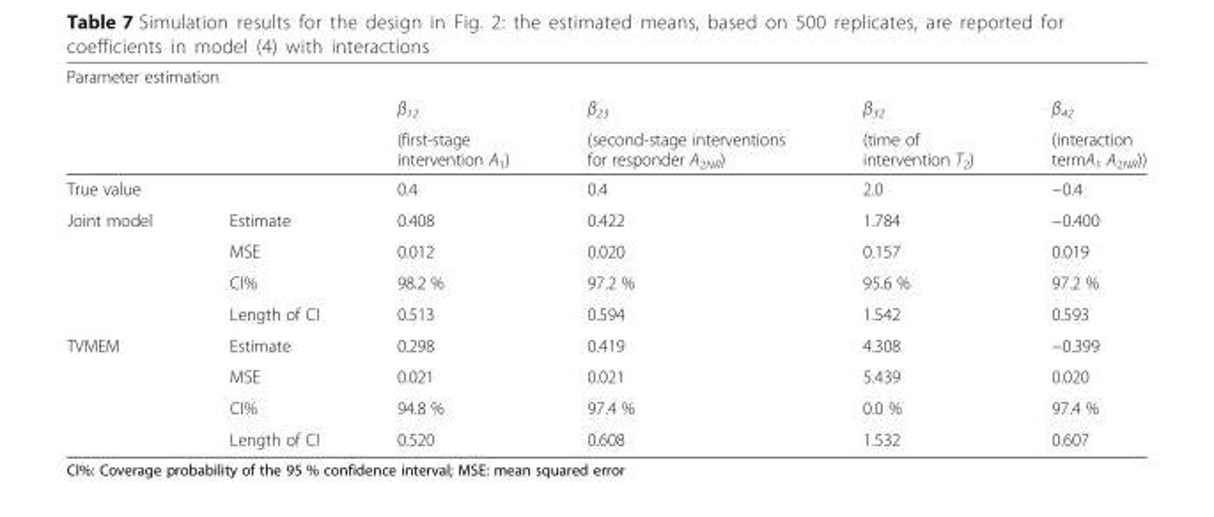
<table><tbody><tr><td colspan="6">Parameter estimation</td></tr><tr><td colspan="2"></td><td>β<sub>12</sub></td><td>β<sub>23</sub></td><td>β<sub>32</sub></td><td>β<sub>42</sub></td></tr><tr><td colspan="2"></td><td>(first-stage intervention A<sub>1</sub>)</td><td>(second-stage interventions for responder A<sub>2NR</sub>)</td><td>(time of intervention T<sub>2</sub>)</td><td>(interaction termA<sub>1</sub> A<sub>2NR</sub>))</td></tr><tr><td colspan="2">True value</td><td>0.4</td><td>0.4</td><td>2.0</td><td>−0.4</td></tr><tr><td rowspan="4">Joint model</td><td>Estimate</td><td>0.408</td><td>0.422</td><td>1.784</td><td>−0.400</td></tr><tr><td>MSE</td><td>0.012</td><td>0.020</td><td>0.157</td><td>0.019</td></tr><tr><td>CI%</td><td>98.2 %</td><td>97.2 %</td><td>95.6 %</td><td>97.2 %</td></tr><tr><td>Length of CI</td><td>0.513</td><td>0.594</td><td>1.542</td><td>0.593</td></tr><tr><td rowspan="4">TVMEM</td><td>Estimate</td><td>0.298</td><td>0.419</td><td>4.308</td><td>−0.399</td></tr><tr><td>MSE</td><td>0.021</td><td>0.021</td><td>5.439</td><td>0.020</td></tr><tr><td>CI%</td><td>94.8 %</td><td>97.4 %</td><td>0.0 %</td><td>97.4 %</td></tr><tr><td>Length of CI</td><td>0.520</td><td>0.608</td><td>1.532</td><td>0.607</td></tr></tbody></table>